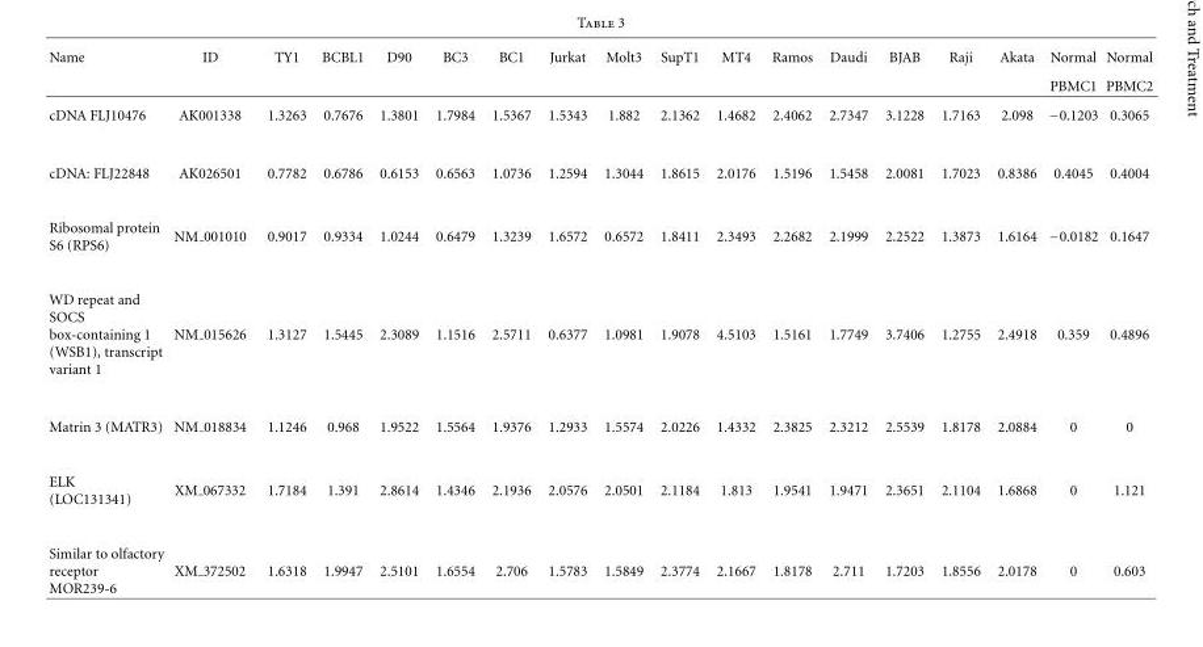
<table><thead><tr><td rowspan="2">Name</td><td rowspan="2">ID</td><td rowspan="2">TY1</td><td rowspan="2">BCBL1</td><td rowspan="2">D90</td><td rowspan="2">BC3</td><td rowspan="2">BC1</td><td rowspan="2">Jurkat</td><td rowspan="2">Molt3</td><td rowspan="2">SupT1</td><td rowspan="2">MT4</td><td rowspan="2">Ramos</td><td rowspan="2">Daudi</td><td rowspan="2">BJAB</td><td rowspan="2">Raji</td><td rowspan="2">Akata</td><td rowspan="2">Normal PBMC1</td><td rowspan="2">Normal PBMC2</td></tr><tr></tr></thead><tbody><tr><td>cDNA FLJ10476</td><td>AK001338</td><td>1.3263</td><td>0.7676</td><td>1.3801</td><td>1.7984</td><td>1.5367</td><td>1.5343</td><td>1.882</td><td>2.1362</td><td>1.4682</td><td>2.4062</td><td>2.7347</td><td>3.1228</td><td>1.7163</td><td>2.098</td><td>−0.1203</td><td>0.3065</td></tr><tr><td>cDNA: FLJ22848</td><td>AK026501</td><td>0.7782</td><td>0.6786</td><td>0.6153</td><td>0.6563</td><td>1.0736</td><td>1.2594</td><td>1.3044</td><td>1.8615</td><td>2.0176</td><td>1.5196</td><td>1.5458</td><td>2.0081</td><td>1.7023</td><td>0.8386</td><td>0.4045</td><td>0.4004</td></tr><tr><td>Ribosomal protein S6 (RPS6)</td><td>NM 001010</td><td>0.9017</td><td>0.9334</td><td>1.0244</td><td>0.6479</td><td>1.3239</td><td>1.6572</td><td>0.6572</td><td>1.8411</td><td>2.3493</td><td>2.2682</td><td>2.1999</td><td>2.2522</td><td>1.3873</td><td>1.6164</td><td>−0.0182</td><td>0.1647</td></tr><tr><td>WD repeat and SOCS box-containing 1 (WSB1), transcript variant 1</td><td>NM 015626</td><td>1.3127</td><td>1.5445</td><td>2.3089</td><td>1.1516</td><td>2.5711</td><td>0.6377</td><td>1.0981</td><td>1.9078</td><td>4.5103</td><td>1.5161</td><td>1.7749</td><td>3.7406</td><td>1.2755</td><td>2.4918</td><td>0.359</td><td>0.4896</td></tr><tr><td>Matrin 3 (MATR3)</td><td>NM 018834</td><td>1.1246</td><td>0.968</td><td>1.9522</td><td>1.5564</td><td>1.9376</td><td>1.2933</td><td>1.5574</td><td>2.0226</td><td>1.4332</td><td>2.3825</td><td>2.3212</td><td>2.5539</td><td>1.8178</td><td>2.0884</td><td>0</td><td>0</td></tr><tr><td>ELK (LOC131341)</td><td>XM 067332</td><td>1.7184</td><td>1.391</td><td>2.8614</td><td>1.4346</td><td>2.1936</td><td>2.0576</td><td>2.0501</td><td>2.1184</td><td>1.813</td><td>1.9541</td><td>1.9471</td><td>2.3651</td><td>2.1104</td><td>1.6868</td><td>0</td><td>1.121</td></tr><tr><td>Similar to olfactory receptor MOR239-6</td><td>XM 372502</td><td>1.6318</td><td>1.9947</td><td>2.5101</td><td>1.6554</td><td>2.706</td><td>1.5783</td><td>1.5849</td><td>2.3774</td><td>2.1667</td><td>1.8178</td><td>2.711</td><td>1.7203</td><td>1.8556</td><td>2.0178</td><td>0</td><td>0.603</td></tr></tbody></table>